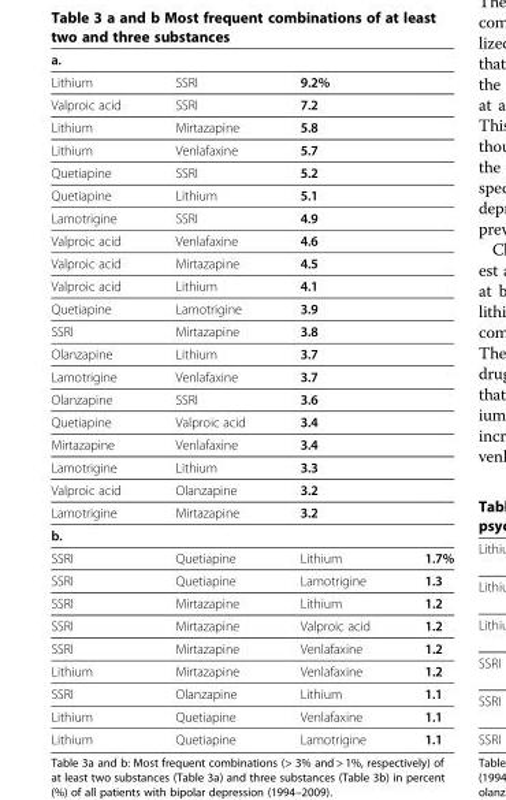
<table><tbody><tr><td colspan="4">a.</td></tr><tr><td>Lithium</td><td>SSRI</td><td>9.2%</td><td></td></tr><tr><td>Valproic acid</td><td>SSRI</td><td>7.2</td><td></td></tr><tr><td>Lithium</td><td>Mirtazapine</td><td>5.8</td><td></td></tr><tr><td>Lithium</td><td>Venlafaxine</td><td>5.7</td><td></td></tr><tr><td>Quetiapine</td><td>SSRI</td><td>5.2</td><td></td></tr><tr><td>Quetiapine</td><td>Lithium</td><td>5.1</td><td></td></tr><tr><td>Lamotrigine</td><td>SSRI</td><td>4.9</td><td></td></tr><tr><td>Valproic acid</td><td>Venlafaxine</td><td>4.6</td><td></td></tr><tr><td>Valproic acid</td><td>Mirtazapine</td><td>4.5</td><td></td></tr><tr><td>Valproic acid</td><td>Lithium</td><td>4.1</td><td></td></tr><tr><td>Quetiapine</td><td>Lamotrigine</td><td>3.9</td><td></td></tr><tr><td>SSRI</td><td>Mirtazapine</td><td>3.8</td><td></td></tr><tr><td>Olanzapine</td><td>Lithium</td><td>3.7</td><td></td></tr><tr><td>Lamotrigine</td><td>Venlafaxine</td><td>3.7</td><td></td></tr><tr><td>Olanzapine</td><td>SSRI</td><td>3.6</td><td></td></tr><tr><td>Quetiapine</td><td>Valproic acid</td><td>3.4</td><td></td></tr><tr><td>Mirtazapine</td><td>Venlafaxine</td><td>3.4</td><td></td></tr><tr><td>Lamotrigine</td><td>Lithium</td><td>3.3</td><td></td></tr><tr><td>Valproic acid</td><td>Olanzapine</td><td>3.2</td><td></td></tr><tr><td>Lamotrigine</td><td>Mirtazapine</td><td>3.2</td><td></td></tr><tr><td colspan="4">b.</td></tr><tr><td>SSRI</td><td>Quetiapine</td><td>Lithium</td><td>1.7%</td></tr><tr><td>SSRI</td><td>Quetiapine</td><td>Lamotrigine</td><td>1.3</td></tr><tr><td>SSRI</td><td>Mirtazapine</td><td>Lithium</td><td>1.2</td></tr><tr><td>SSRI</td><td>Mirtazapine</td><td>Valproic acid</td><td>1.2</td></tr><tr><td>SSRI</td><td>Mirtazapine</td><td>Venlafaxine</td><td>1.2</td></tr><tr><td>Lithium</td><td>Mirtazapine</td><td>Venlafaxine</td><td>1.2</td></tr><tr><td>SSRI</td><td>Olanzapine</td><td>Lithium</td><td>1.1</td></tr><tr><td>Lithium</td><td>Quetiapine</td><td>Venlafaxine</td><td>1.1</td></tr><tr><td>Lithium</td><td>Quetiapine</td><td>Lamotrigine</td><td>1.1</td></tr></tbody></table>